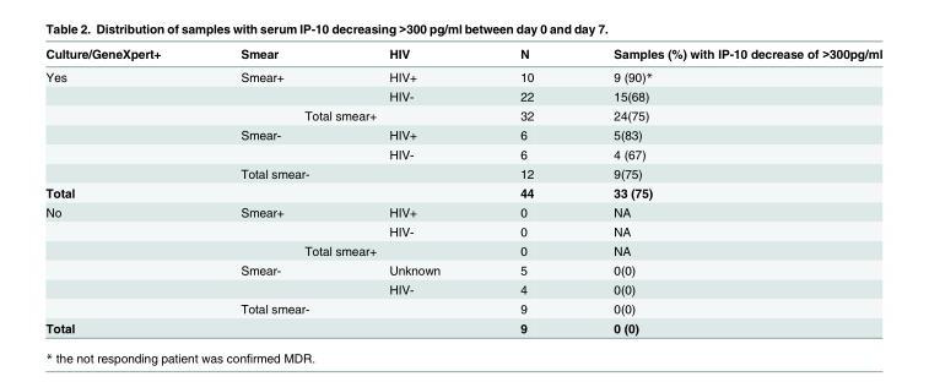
<table><thead><tr><td>Culture/GeneXpert+</td><td>Smear</td><td>HIV</td><td>N</td><td>Samples (%) with IP-10 decrease of &gt;300pg/ml</td></tr></thead><tbody><tr><td rowspan="6">Yes</td><td>Smear+</td><td>HIV+</td><td>10</td><td>9 (90)*</td></tr><tr><td></td><td>HIV-</td><td>22</td><td>15(68)</td></tr><tr><td colspan="2">Total smear+</td><td>32</td><td>24(75)</td></tr><tr><td>Smear-</td><td>HIV+</td><td>6</td><td>5(83)</td></tr><tr><td></td><td>HIV-</td><td>6</td><td>4 (67)</td></tr><tr><td>Total smear-</td><td></td><td>12</td><td>9(75)</td></tr><tr><td>Total</td><td></td><td></td><td>44</td><td>33 (75)</td></tr><tr><td rowspan="6">No</td><td>Smear+</td><td>HIV+</td><td>0</td><td>NA</td></tr><tr><td></td><td>HIV-</td><td>0</td><td>NA</td></tr><tr><td colspan="2">Total smear+</td><td>0</td><td>NA</td></tr><tr><td>Smear-</td><td>Unknown</td><td>5</td><td>0(0)</td></tr><tr><td></td><td>HIV-</td><td>4</td><td>0(0)</td></tr><tr><td>Total smear-</td><td></td><td>9</td><td>0(0)</td></tr><tr><td>Total</td><td></td><td></td><td>9</td><td>0 (0)</td></tr></tbody></table>